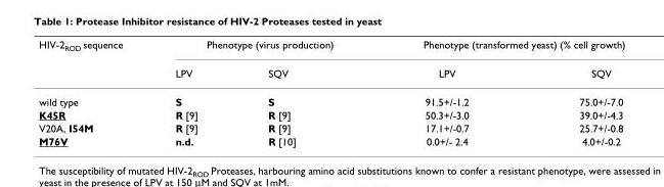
<table><thead><tr><td rowspan="2">HIV-2<sub>ROD</sub> sequence</td><td colspan="2">Phenotype (virus production)</td><td colspan="2">Phenotype (transformed yeast) (% cell growth)</td></tr><tr><td>LPV</td><td>SQV</td><td>LPV</td><td>SQV</td></tr></thead><tbody><tr><td>wild type</td><td>S</td><td>S</td><td>91.5+/-1.2</td><td>75.0+/-7.0</td></tr><tr><td>K45R</td><td>R [9]</td><td>R [9]</td><td>50.3+/-3.0</td><td>39.0+/-4.3</td></tr><tr><td>V20A, I54M</td><td>R [9]</td><td>R [9]</td><td>17.1+/-0.7</td><td>25.7+/-0.8</td></tr><tr><td>M76V</td><td>n.d.</td><td>R [10]</td><td>0.0+/- 2.4</td><td>4.0+/-0.2</td></tr></tbody></table>